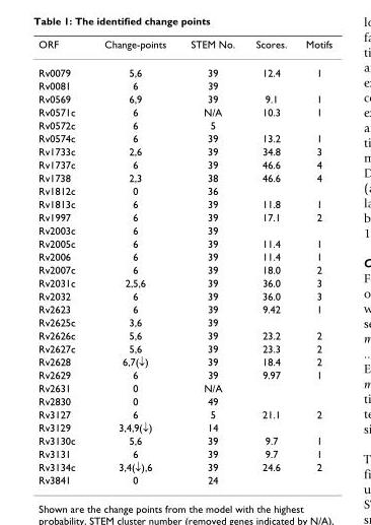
<table><thead><tr><td>ORF</td><td>Change-points</td><td>STEM No.</td><td>Scores.</td><td>Motifs</td></tr></thead><tbody><tr><td>Rv0079</td><td>5,6</td><td>39</td><td>12.4</td><td>1</td></tr><tr><td>Rv0081</td><td>6</td><td>39</td><td></td><td></td></tr><tr><td>Rv0569</td><td>6,9</td><td>39</td><td>9.1</td><td>1</td></tr><tr><td>Rv0571c</td><td>6</td><td>N/A</td><td>10.3</td><td>1</td></tr><tr><td>Rv0572c</td><td>6</td><td>5</td><td></td><td></td></tr><tr><td>Rv0574c</td><td>6</td><td>39</td><td>13.2</td><td>1</td></tr><tr><td>Rv1733c</td><td>2,6</td><td>39</td><td>34.8</td><td>3</td></tr><tr><td>Rv1737c</td><td>6</td><td>39</td><td>46.6</td><td>4</td></tr><tr><td>Rv1738</td><td>2,3</td><td>38</td><td>46.6</td><td>4</td></tr><tr><td>Rv1812c</td><td>0</td><td>36</td><td></td><td></td></tr><tr><td>Rv1813c</td><td>6</td><td>39</td><td>11.8</td><td>1</td></tr><tr><td>Rv1997</td><td>6</td><td>39</td><td>17.1</td><td>2</td></tr><tr><td>Rv2003c</td><td>6</td><td>39</td><td></td><td></td></tr><tr><td>Rv2005c</td><td>6</td><td>39</td><td>11.4</td><td>1</td></tr><tr><td>Rv2006</td><td>6</td><td>39</td><td>11.4</td><td>1</td></tr><tr><td>Rv2007c</td><td>6</td><td>39</td><td>18.0</td><td>2</td></tr><tr><td>Rv2031c</td><td>2,5,6</td><td>39</td><td>36.0</td><td>3</td></tr><tr><td>Rv2032</td><td>6</td><td>39</td><td>36.0</td><td>3</td></tr><tr><td>Rv2623</td><td>6</td><td>39</td><td>9.42</td><td>1</td></tr><tr><td>Rv2625c</td><td>3,6</td><td>39</td><td></td><td></td></tr><tr><td>Rv2626c</td><td>5,6</td><td>39</td><td>23.2</td><td>2</td></tr><tr><td>Rv2627c</td><td>5,6</td><td>39</td><td>23.3</td><td>2</td></tr><tr><td>Rv2628</td><td>6,7(↓)</td><td>39</td><td>18.4</td><td>2</td></tr><tr><td>Rv2629</td><td>6</td><td>39</td><td>9.97</td><td>1</td></tr><tr><td>Rv2631</td><td>0</td><td>N/A</td><td></td><td></td></tr><tr><td>Rv2830</td><td>0</td><td>49</td><td></td><td></td></tr><tr><td>Rv3127</td><td>6</td><td>5</td><td>21.1</td><td>2</td></tr><tr><td>Rv3129</td><td>3,4,9(↓)</td><td>14</td><td></td><td></td></tr><tr><td>Rv3130c</td><td>5,6</td><td>39</td><td>9.7</td><td>1</td></tr><tr><td>Rv3131</td><td>6</td><td>39</td><td>9.7</td><td>1</td></tr><tr><td>Rv3134c</td><td>3,4(↓),6</td><td>39</td><td>24.6</td><td>2</td></tr><tr><td>Rv3841</td><td>0</td><td>24</td><td></td><td></td></tr></tbody></table>